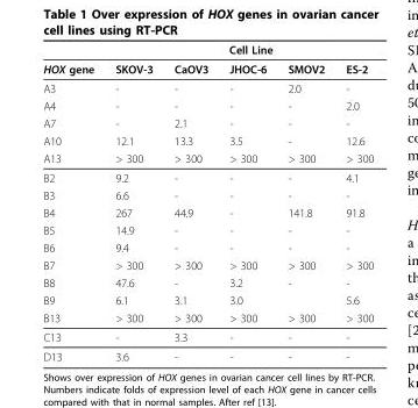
<table><thead><tr><td rowspan="2">HOX gene</td><td colspan="5">Cell Line</td></tr><tr><td>SKOV-3</td><td>CaOV3</td><td>JHOC-6</td><td>SMOV2</td><td>ES-2</td></tr></thead><tbody><tr><td>A3</td><td>-</td><td>-</td><td>-</td><td>2.0</td><td>-</td></tr><tr><td>A4</td><td>-</td><td>-</td><td>-</td><td>-</td><td>2.0</td></tr><tr><td>A7</td><td>-</td><td>2.1</td><td>-</td><td>-</td><td>-</td></tr><tr><td>A10</td><td>12.1</td><td>13.3</td><td>3.5</td><td>-</td><td>12.6</td></tr><tr><td>A13</td><td>&gt; 300</td><td>&gt; 300</td><td>&gt; 300</td><td>&gt; 300</td><td>&gt; 300</td></tr><tr><td>B2</td><td>9.2</td><td>-</td><td>-</td><td>-</td><td>4.1</td></tr><tr><td>B3</td><td>6.6</td><td>-</td><td>-</td><td>-</td><td>-</td></tr><tr><td>B4</td><td>267</td><td>44.9</td><td>-</td><td>141.8</td><td>91.8</td></tr><tr><td>B5</td><td>14.9</td><td>-</td><td>-</td><td>-</td><td>-</td></tr><tr><td>B6</td><td>9.4</td><td>-</td><td>-</td><td>-</td><td>-</td></tr><tr><td>B7</td><td>&gt; 300</td><td>&gt; 300</td><td>&gt; 300</td><td>&gt; 300</td><td>&gt; 300</td></tr><tr><td>B8</td><td>47.6</td><td>-</td><td>3.2</td><td>-</td><td>-</td></tr><tr><td>B9</td><td>6.1</td><td>3.1</td><td>3.0</td><td></td><td>5.6</td></tr><tr><td>B13</td><td>&gt; 300</td><td>&gt; 300</td><td>&gt; 300</td><td>&gt; 300</td><td>&gt; 300</td></tr><tr><td>C13</td><td>-</td><td>3.3</td><td>-</td><td>-</td><td>-</td></tr><tr><td>D13</td><td>3.6</td><td>-</td><td>-</td><td>-</td><td>-</td></tr></tbody></table>